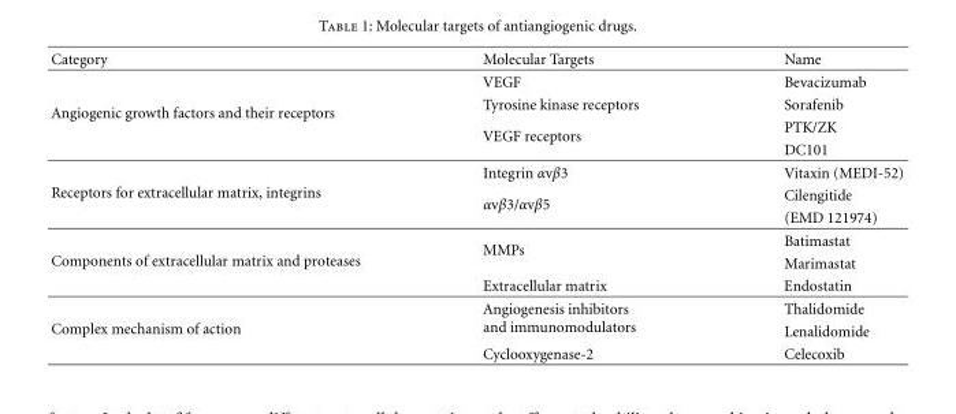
<table><thead><tr><td>Category</td><td>Molecular Targets</td><td>Name</td></tr></thead><tbody><tr><td rowspan="4">Angiogenic growth factors and their receptors</td><td>VEGF</td><td>Bevacizumab</td></tr><tr><td>Tyrosine kinase receptors</td><td>Sorafenib</td></tr><tr><td rowspan="2">VEGF receptors</td><td>PTK/ZK</td></tr><tr><td>DC101</td></tr><tr><td rowspan="3">Receptors for extracellular matrix, integrins</td><td>Integrin αvβ3</td><td>Vitaxin (MEDI-52)</td></tr><tr><td rowspan="2">αvβ3/αvβ5</td><td>Cilengitide</td></tr><tr><td>(EMD 121974)</td></tr><tr><td rowspan="3">Components of extracellular matrix and proteases</td><td rowspan="2">MMPs</td><td>Batimastat</td></tr><tr><td>Marimastat</td></tr><tr><td>Extracellular matrix</td><td>Endostatin</td></tr><tr><td rowspan="3">Complex mechanism of action</td><td rowspan="2">Angiogenesis inhibitors and immunomodulators</td><td>Thalidomide</td></tr><tr><td>Lenalidomide</td></tr><tr><td>Cyclooxygenase-2</td><td>Celecoxib</td></tr></tbody></table>